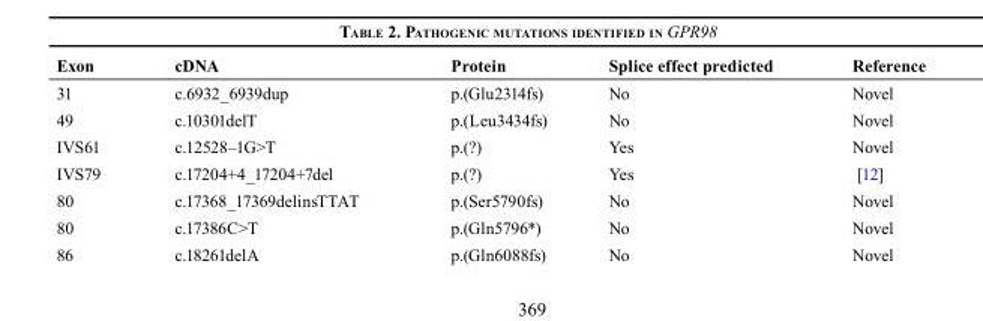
<table><thead><tr><td>Exon</td><td>cDNA</td><td>Protein</td><td>Splice effect predicted</td><td>Reference</td></tr></thead><tbody><tr><td>31</td><td>c.6932_6939dup</td><td>p.(Glu2314fs)</td><td>No</td><td>Novel</td></tr><tr><td>49</td><td>c.10301delT</td><td>p.(Leu3434fs)</td><td>No</td><td>Novel</td></tr><tr><td>IVS61</td><td>c.12528–1G&gt;T</td><td>p.(?)</td><td>Yes</td><td>Novel</td></tr><tr><td>IVS79</td><td>c.17204+4_17204+7del</td><td>p.(?)</td><td>Yes</td><td>[12]</td></tr><tr><td>80</td><td>c.17368_17369delinsTTAT</td><td>p.(Ser5790fs)</td><td>No</td><td>Novel</td></tr><tr><td>80</td><td>c.17386C&gt;T</td><td>p.(Gln5796*)</td><td>No</td><td>Novel</td></tr><tr><td>86</td><td>c.18261delA</td><td>p.(Gln6088fs)</td><td>No</td><td>Novel</td></tr></tbody></table>